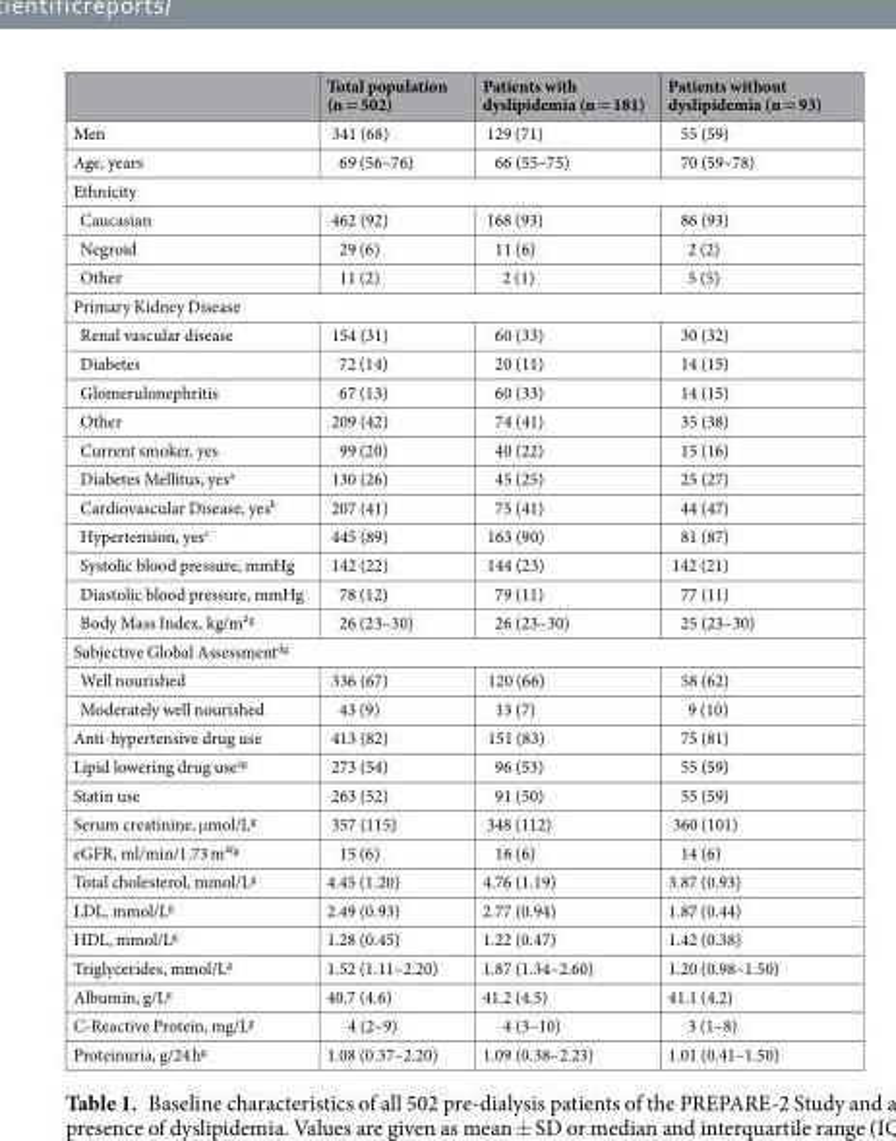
<table><thead><tr><td></td><td>Total population (n = 502)</td><td>Patients with dyslipidemia (n = 181)</td><td>Patients without dyslipidemia (n = 93)</td></tr></thead><tbody><tr><td>Men</td><td>341 (68)</td><td>129 (71)</td><td>55 (59)</td></tr><tr><td>Age, years</td><td>69 (56–76)</td><td>66 (55–75)</td><td>70 (59–78)</td></tr><tr><td colspan="4">Ethnicity</td></tr><tr><td>Caucasian</td><td>462 (92)</td><td>168 (93)</td><td>86 (93)</td></tr><tr><td>Negroid</td><td>29 (6)</td><td>11 (6)</td><td>2 (2)</td></tr><tr><td>Other</td><td>11 (2)</td><td>2 (1)</td><td>5 (5)</td></tr><tr><td colspan="4">Primary Kidney Disease</td></tr><tr><td>Renal vascular disease</td><td>154 (31)</td><td>60 (33)</td><td>30 (32)</td></tr><tr><td>Diabetes</td><td>72 (14)</td><td>20 (11)</td><td>14 (15)</td></tr><tr><td>Glomerulonephritis</td><td>67 (13)</td><td>60 (33)</td><td>14 (15)</td></tr><tr><td>Other</td><td>209 (42)</td><td>74 (41)</td><td>35 (38)</td></tr><tr><td>Current smoker, yes</td><td>99 (20)</td><td>40 (22)</td><td>15 (16)</td></tr><tr><td>Diabetes Mellitus, yes<sup>a</sup></td><td>130 (26)</td><td>45 (25)</td><td>25 (27)</td></tr><tr><td>Cardiovascular Disease, yes<sup>b</sup></td><td>207 (41)</td><td>75 (41)</td><td>44 (47)</td></tr><tr><td>Hypertension, yes<sup>c</sup></td><td>445 (89)</td><td>163 (90)</td><td>81 (87)</td></tr><tr><td>Systolic blood pressure, mmHg</td><td>142 (22)</td><td>144 (23)</td><td>142 (21)</td></tr><tr><td>Diastolic blood pressure, mmHg</td><td>78 (12)</td><td>79 (11)</td><td>77 (11)</td></tr><tr><td>Body Mass Index, kg/m²<sup>g</sup></td><td>26 (23–30)</td><td>26 (23–30)</td><td>25 (23–30)</td></tr><tr><td colspan="4">Subjective Global Assessment<sup>dg</sup></td></tr><tr><td>Well nourished</td><td>336 (67)</td><td>120 (66)</td><td>58 (62)</td></tr><tr><td>Moderately well nourished</td><td>43 (9)</td><td>13 (7)</td><td>9 (10)</td></tr><tr><td>Anti-hypertensive drug use</td><td>413 (82)</td><td>151 (83)</td><td>75 (81)</td></tr><tr><td>Lipid lowering drug use<sup>eg</sup></td><td>273 (54)</td><td>96 (53)</td><td>55 (59)</td></tr><tr><td>Statin use</td><td>263 (52)</td><td>91 (50)</td><td>55 (59)</td></tr><tr><td>Serum creatinine, μmol/L<sup>g</sup></td><td>357 (115)</td><td>348 (112)</td><td>360 (101)</td></tr><tr><td>eGFR, ml/min/1.73 m²<sup>fg</sup></td><td>15 (6)</td><td>16 (6)</td><td>14 (6)</td></tr><tr><td>Total cholesterol, mmol/L<sup>g</sup></td><td>4.45 (1.20)</td><td>4.76 (1.19)</td><td>3.87 (0.93)</td></tr><tr><td>LDL, mmol/L<sup>g</sup></td><td>2.49 (0.93)</td><td>2.77 (0.94)</td><td>1.87 (0.44)</td></tr><tr><td>HDL, mmol/L<sup>g</sup></td><td>1.28 (0.45)</td><td>1.22 (0.47)</td><td>1.42 (0.38)</td></tr><tr><td>Triglycerides, mmol/L<sup>g</sup></td><td>1.52 (1.11–2.20)</td><td>1.87 (1.34–2.60)</td><td>1.20 (0.98–1.50)</td></tr><tr><td>Albumin, g/L<sup>g</sup></td><td>40.7 (4.6)</td><td>41.2 (4.5)</td><td>41.1 (4.2)</td></tr><tr><td>C-Reactive Protein, mg/L<sup>g</sup></td><td>4 (2–9)</td><td>4 (3–10)</td><td>3 (1–8)</td></tr><tr><td>Proteinuria, g/24 h<sup>g</sup></td><td>1.08 (0.37–2.20)</td><td>1.09 (0.38–2.23)</td><td>1.01 (0.41–1.50)</td></tr></tbody></table>